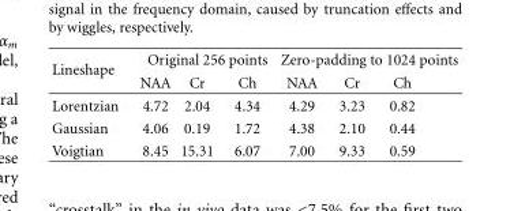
<table><thead><tr><td rowspan="2">Lineshape</td><td colspan="3">Original 256 points</td><td colspan="3">Zero-padding to 1024 points</td></tr><tr><td>NAA</td><td>Cr</td><td>Ch</td><td>NAA</td><td>Cr</td><td>Ch</td></tr></thead><tbody><tr><td>Lorentzian</td><td>4.72</td><td>2.04</td><td>4.34</td><td>4.29</td><td>3.23</td><td>0.82</td></tr><tr><td>Gaussian</td><td>4.06</td><td>0.19</td><td>1.72</td><td>4.38</td><td>2.10</td><td>0.44</td></tr><tr><td>Voigtian</td><td>8.45</td><td>15.31</td><td>6.07</td><td>7.00</td><td>9.33</td><td>0.59</td></tr></tbody></table>